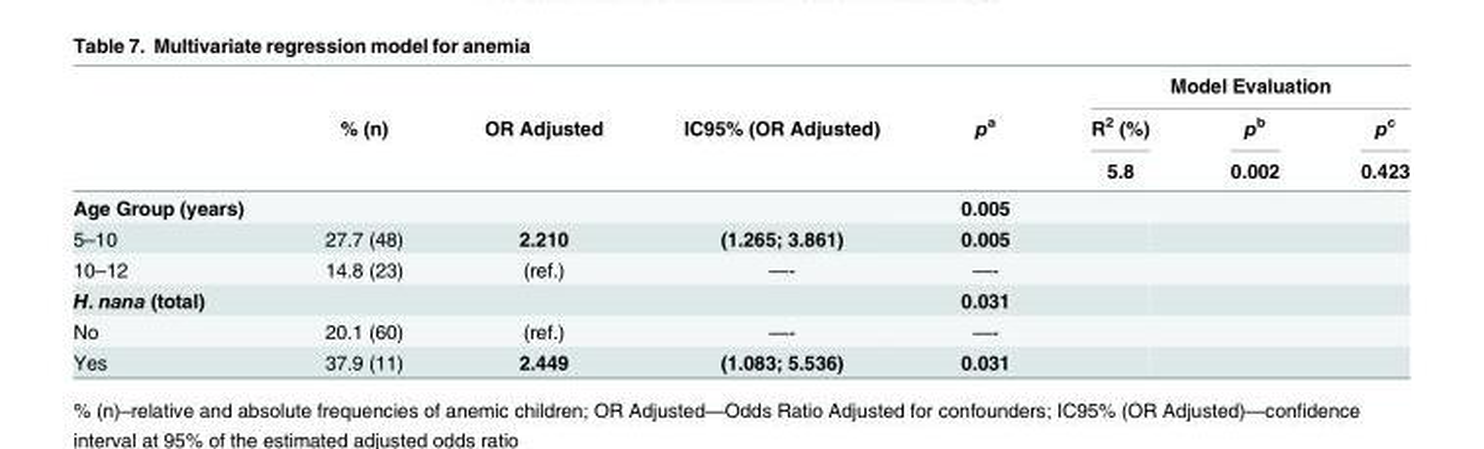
<table><thead><tr><td rowspan="2"></td><td rowspan="2">% (n)</td><td rowspan="2">OR Adjusted</td><td rowspan="2">IC95% (OR Adjusted)</td><td rowspan="2">p<sup>a</sup></td><td colspan="3">Model Evaluation</td></tr><tr><td>R<sup>2</sup> (%)</td><td>p<sup>b</sup></td><td>p<sup>c</sup></td></tr></thead><tbody><tr><td></td><td colspan="2"></td><td></td><td></td><td>5.8</td><td>0.002</td><td>0.423</td></tr><tr><td>Age Group (years)</td><td></td><td></td><td></td><td>0.005</td><td></td><td></td><td></td></tr><tr><td>5–10</td><td>27.7 (48)</td><td>2.210</td><td>(1.265; 3.861)</td><td>0.005</td><td></td><td></td><td></td></tr><tr><td>10–12</td><td>14.8 (23)</td><td>(ref.)</td><td>—-</td><td>—-</td><td></td><td></td><td></td></tr><tr><td>H. nana (total)</td><td></td><td></td><td></td><td>0.031</td><td></td><td></td><td></td></tr><tr><td>No</td><td>20.1 (60)</td><td>(ref.)</td><td>—-</td><td>—-</td><td></td><td></td><td></td></tr><tr><td>Yes</td><td>37.9 (11)</td><td>2.449</td><td>(1.083; 5.536)</td><td>0.031</td><td></td><td></td><td></td></tr></tbody></table>